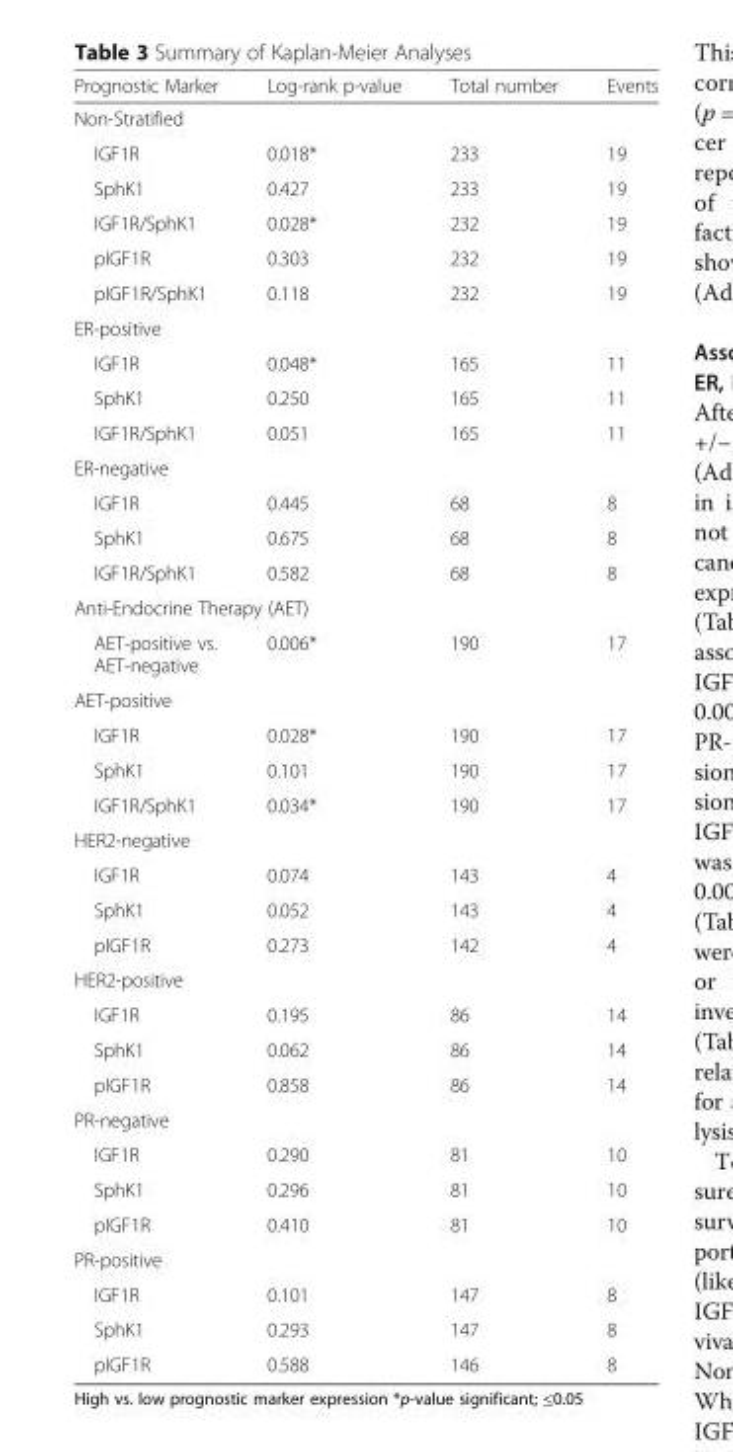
<table><thead><tr><td>Prognostic Marker</td><td>Log-rank p-value</td><td>Total number</td><td>Events</td></tr></thead><tbody><tr><td colspan="4">Non-Stratified</td></tr><tr><td>IGF1R</td><td>0.018*</td><td>233</td><td>19</td></tr><tr><td>SphK1</td><td>0.427</td><td>233</td><td>19</td></tr><tr><td>IGF1R/SphK1</td><td>0.028*</td><td>232</td><td>19</td></tr><tr><td>pIGF1R</td><td>0.303</td><td>232</td><td>19</td></tr><tr><td>pIGF1R/SphK1</td><td>0.118</td><td>232</td><td>19</td></tr><tr><td colspan="4">ER-positive</td></tr><tr><td>IGF1R</td><td>0.048*</td><td>165</td><td>11</td></tr><tr><td>SphK1</td><td>0.250</td><td>165</td><td>11</td></tr><tr><td>IGF1R/SphK1</td><td>0.051</td><td>165</td><td>11</td></tr><tr><td colspan="4">ER-negative</td></tr><tr><td>IGF1R</td><td>0.445</td><td>68</td><td>8</td></tr><tr><td>SphK1</td><td>0.675</td><td>68</td><td>8</td></tr><tr><td>IGF1R/SphK1</td><td>0.582</td><td>68</td><td>8</td></tr><tr><td colspan="4">Anti-Endocrine Therapy (AET)</td></tr><tr><td>AET-positive vs. AET-negative</td><td>0.006*</td><td>190</td><td>17</td></tr><tr><td colspan="4">AET-positive</td></tr><tr><td>IGF1R</td><td>0.028*</td><td>190</td><td>17</td></tr><tr><td>SphK1</td><td>0.101</td><td>190</td><td>17</td></tr><tr><td>IGF1R/SphK1</td><td>0.034*</td><td>190</td><td>17</td></tr><tr><td colspan="4">HER2-negative</td></tr><tr><td>IGF1R</td><td>0.074</td><td>143</td><td>4</td></tr><tr><td>SphK1</td><td>0.052</td><td>143</td><td>4</td></tr><tr><td>pIGF1R</td><td>0.273</td><td>142</td><td>4</td></tr><tr><td colspan="4">HER2-positive</td></tr><tr><td>IGF1R</td><td>0.195</td><td>86</td><td>14</td></tr><tr><td>SphK1</td><td>0.062</td><td>86</td><td>14</td></tr><tr><td>pIGF1R</td><td>0.858</td><td>86</td><td>14</td></tr><tr><td colspan="4">PR-negative</td></tr><tr><td>IGF1R</td><td>0.290</td><td>81</td><td>10</td></tr><tr><td>SphK1</td><td>0.296</td><td>81</td><td>10</td></tr><tr><td>pIGF1R</td><td>0.410</td><td>81</td><td>10</td></tr><tr><td colspan="4">PR-positive</td></tr><tr><td>IGF1R</td><td>0.101</td><td>147</td><td>8</td></tr><tr><td>SphK1</td><td>0.293</td><td>147</td><td>8</td></tr><tr><td>pIGF1R</td><td>0.588</td><td>146</td><td>8</td></tr></tbody></table>